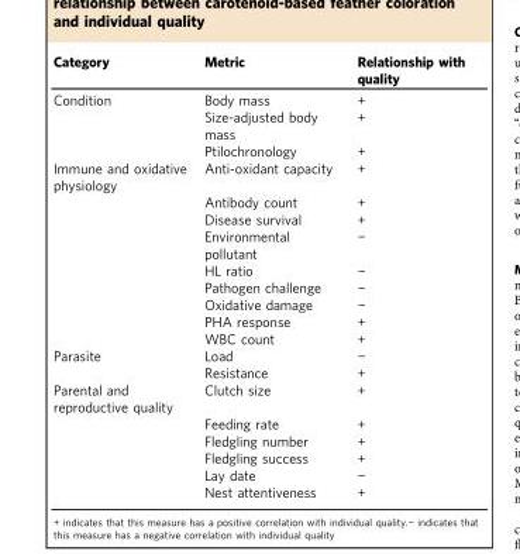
<table><thead><tr><td>Category</td><td>Metric</td><td>Relationship with quality</td></tr></thead><tbody><tr><td rowspan="3">Condition</td><td>Body mass</td><td>+</td></tr><tr><td>Size-adjusted body mass</td><td>+</td></tr><tr><td>Ptilochronology</td><td>+</td></tr><tr><td rowspan="9">Immune and oxidative physiology</td><td>Anti-oxidant capacity</td><td>+</td></tr><tr><td>Antibody count</td><td>+</td></tr><tr><td>Disease survival</td><td>+</td></tr><tr><td>Environmental pollutant</td><td>−</td></tr><tr><td>HL ratio</td><td>−</td></tr><tr><td>Pathogen challenge</td><td>−</td></tr><tr><td>Oxidative damage</td><td>−</td></tr><tr><td>PHA response</td><td>+</td></tr><tr><td>WBC count</td><td>+</td></tr><tr><td rowspan="2">Parasite</td><td>Load</td><td>−</td></tr><tr><td>Resistance</td><td>+</td></tr><tr><td rowspan="6">Parental and reproductive quality</td><td>Clutch size</td><td>+</td></tr><tr><td>Feeding rate</td><td>+</td></tr><tr><td>Fledgling number</td><td>+</td></tr><tr><td>Fledgling success</td><td>+</td></tr><tr><td>Lay date</td><td>−</td></tr><tr><td>Nest attentiveness</td><td>+</td></tr></tbody></table>